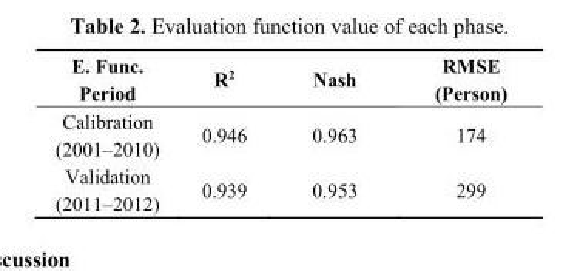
<table><thead><tr><td>E. Func. Period</td><td>R<sup>2</sup></td><td>Nash</td><td>RMSE (Person)</td></tr></thead><tbody><tr><td>Calibration (2001–2010)</td><td>0.946</td><td>0.963</td><td>174</td></tr><tr><td>Validation (2011–2012)</td><td>0.939</td><td>0.953</td><td>299</td></tr></tbody></table>